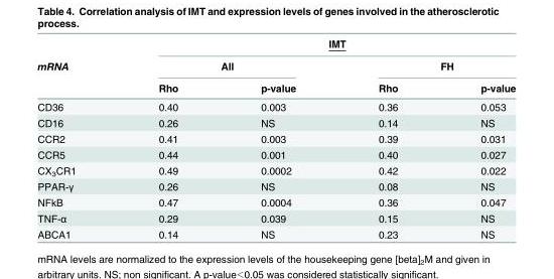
<table><thead><tr><td rowspan="3">mRNA</td><td colspan="4">IMT</td></tr><tr><td colspan="2">All</td><td colspan="2">FH</td></tr><tr><td>Rho</td><td>p-value</td><td>Rho</td><td>p-value</td></tr></thead><tbody><tr><td>CD36</td><td>0.40</td><td>0.003</td><td>0.36</td><td>0.053</td></tr><tr><td>CD16</td><td>0.26</td><td>NS</td><td>0.14</td><td>NS</td></tr><tr><td>CCR2</td><td>0.41</td><td>0.003</td><td>0.39</td><td>0.031</td></tr><tr><td>CCR5</td><td>0.44</td><td>0.001</td><td>0.40</td><td>0.027</td></tr><tr><td>CX<sub>3</sub>CR1</td><td>0.49</td><td>0.0002</td><td>0.42</td><td>0.022</td></tr><tr><td>PPAR-γ</td><td>0.26</td><td>NS</td><td>0.08</td><td>NS</td></tr><tr><td>NFkB</td><td>0.47</td><td>0.0004</td><td>0.36</td><td>0.047</td></tr><tr><td>TNF-α</td><td>0.29</td><td>0.039</td><td>0.15</td><td>NS</td></tr><tr><td>ABCA1</td><td>0.14</td><td>NS</td><td>0.23</td><td>NS</td></tr></tbody></table>